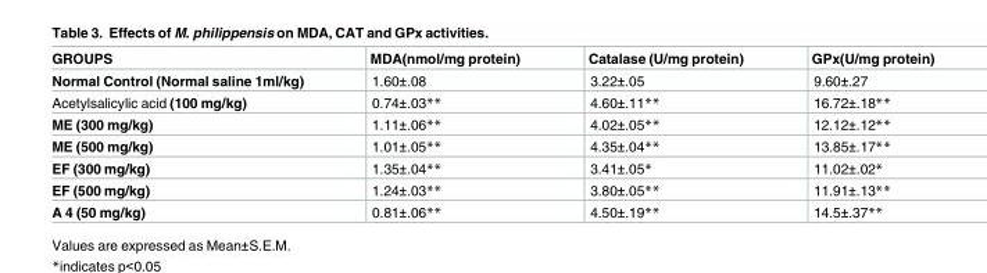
<table><thead><tr><td>GROUPS</td><td>MDA(nmol/mg protein)</td><td>Catalase (U/mg protein)</td><td>GPx(U/mg protein)</td></tr></thead><tbody><tr><td>Normal Control (Normal saline 1ml/kg)</td><td>1.60±.08</td><td>3.22±.05</td><td>9.60±.27</td></tr><tr><td>Acetylsalicylic acid (100 mg/kg)</td><td>0.74±.03**</td><td>4.60±.11**</td><td>16.72±.18**</td></tr><tr><td>ME (300 mg/kg)</td><td>1.11±.06**</td><td>4.02±.05**</td><td>12.12±.12**</td></tr><tr><td>ME (500 mg/kg)</td><td>1.01±.05**</td><td>4.35±.04**</td><td>13.85±.17**</td></tr><tr><td>EF (300 mg/kg)</td><td>1.35±.04**</td><td>3.41±.05*</td><td>11.02±.02*</td></tr><tr><td>EF (500 mg/kg)</td><td>1.24±.03**</td><td>3.80±.05**</td><td>11.91±.13**</td></tr><tr><td>A 4 (50 mg/kg)</td><td>0.81±.06**</td><td>4.50±.19**</td><td>14.5±.37**</td></tr></tbody></table>